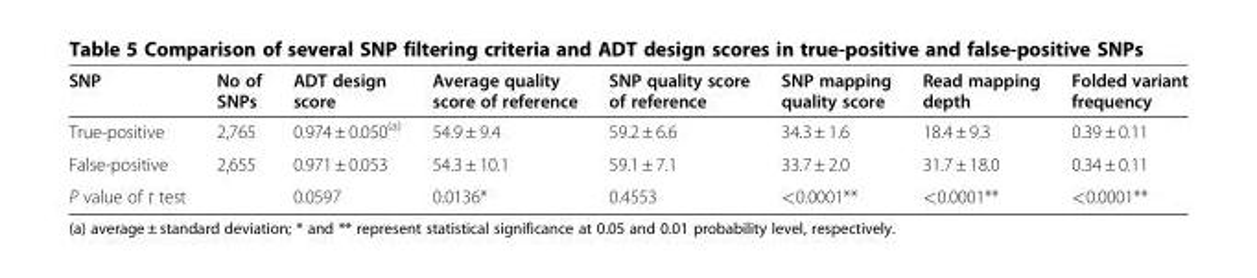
<table><thead><tr><td>SNP</td><td>No of SNPs</td><td>ADT design score</td><td>Average quality score of reference</td><td>SNP quality score of reference</td><td>SNP mapping quality score</td><td>Read mapping depth</td><td>Folded variant frequency</td></tr></thead><tbody><tr><td>True-positive</td><td>2,765</td><td>0.974 ± 0.050<sup>(a)</sup></td><td>54.9 ± 9.4</td><td>59.2 ± 6.6</td><td>34.3 ± 1.6</td><td>18.4 ± 9.3</td><td>0.39 ± 0.11</td></tr><tr><td>False-positive</td><td>2,655</td><td>0.971 ± 0.053</td><td>54.3 ± 10.1</td><td>59.1 ± 7.1</td><td>33.7 ± 2.0</td><td>31.7 ± 18.0</td><td>0.34 ± 0.11</td></tr><tr><td>P value of t test</td><td></td><td>0.0597</td><td>0.0136*</td><td>0.4553</td><td>&lt;0.0001**</td><td>&lt;0.0001**</td><td>&lt;0.0001**</td></tr></tbody></table>